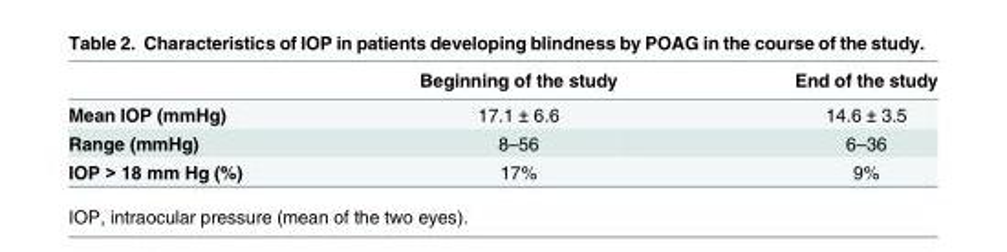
<table><thead><tr><td></td><td>Beginning of the study</td><td>End of the study</td></tr></thead><tbody><tr><td>Mean IOP (mmHg)</td><td>17.1 ± 6.6</td><td>14.6 ± 3.5</td></tr><tr><td>Range (mmHg)</td><td>8–56</td><td>6–36</td></tr><tr><td>IOP &gt; 18 mm Hg (%)</td><td>17%</td><td>9%</td></tr></tbody></table>